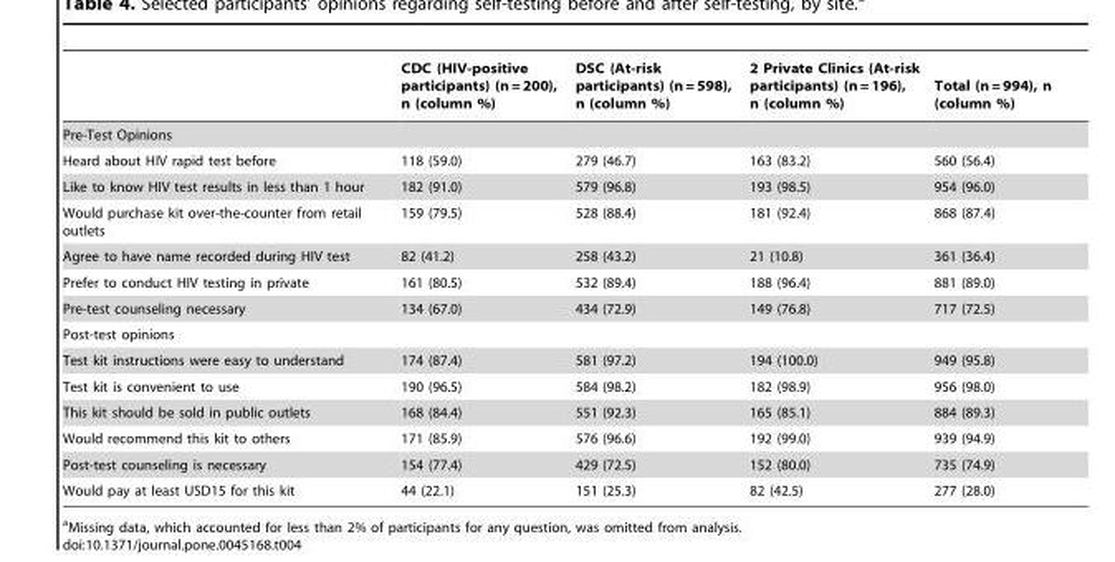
<table><thead><tr><td></td><td>CDC (HIV-positive participants) (n = 200), n (column %)</td><td>DSC (At-risk participants) (n = 598), n (column %)</td><td>2 Private Clinics (At-risk participants) (n = 196), n (column %)</td><td>Total (n = 994), n (column %)</td></tr></thead><tbody><tr><td colspan="5">Pre-Test Opinions</td></tr><tr><td>Heard about HIV rapid test before</td><td>118 (59.0)</td><td>279 (46.7)</td><td>163 (83.2)</td><td>560 (56.4)</td></tr><tr><td>Like to know HIV test results in less than 1 hour</td><td>182 (91.0)</td><td>579 (96.8)</td><td>193 (98.5)</td><td>954 (96.0)</td></tr><tr><td>Would purchase kit over-the-counter from retail outlets</td><td>159 (79.5)</td><td>528 (88.4)</td><td>181 (92.4)</td><td>868 (87.4)</td></tr><tr><td>Agree to have name recorded during HIV test</td><td>82 (41.2)</td><td>258 (43.2)</td><td>21 (10.8)</td><td>361 (36.4)</td></tr><tr><td>Prefer to conduct HIV testing in private</td><td>161 (80.5)</td><td>532 (89.4)</td><td>188 (96.4)</td><td>881 (89.0)</td></tr><tr><td>Pre-test counseling necessary</td><td>134 (67.0)</td><td>434 (72.9)</td><td>149 (76.8)</td><td>717 (72.5)</td></tr><tr><td colspan="5">Post-test opinions</td></tr><tr><td>Test kit instructions were easy to understand</td><td>174 (87.4)</td><td>581 (97.2)</td><td>194 (100.0)</td><td>949 (95.8)</td></tr><tr><td>Test kit is convenient to use</td><td>190 (96.5)</td><td>584 (98.2)</td><td>182 (98.9)</td><td>956 (98.0)</td></tr><tr><td>This kit should be sold in public outlets</td><td>168 (84.4)</td><td>551 (92.3)</td><td>165 (85.1)</td><td>884 (89.3)</td></tr><tr><td>Would recommend this kit to others</td><td>171 (85.9)</td><td>576 (96.6)</td><td>192 (99.0)</td><td>939 (94.9)</td></tr><tr><td>Post-test counseling is necessary</td><td>154 (77.4)</td><td>429 (72.5)</td><td>152 (80.0)</td><td>735 (74.9)</td></tr><tr><td>Would pay at least USD15 for this kit</td><td>44 (22.1)</td><td>151 (25.3)</td><td>82 (42.5)</td><td>277 (28.0)</td></tr></tbody></table>